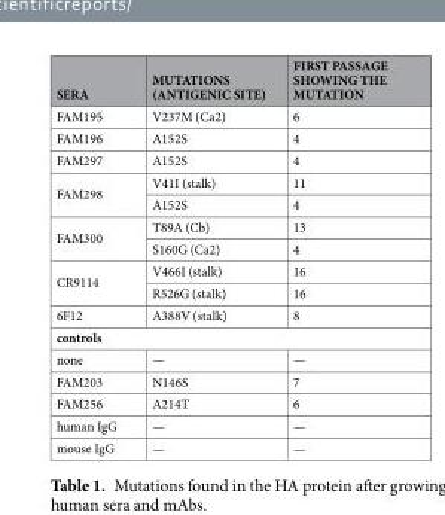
<table><thead><tr><td>SERA</td><td>MUTATIONS (ANTIGENIC SITE)</td><td>FIRST PASSAGE SHOWING THE MUTATION</td></tr></thead><tbody><tr><td>FAM195</td><td>V237M (Ca2)</td><td>6</td></tr><tr><td>FAM196</td><td>A152S</td><td>4</td></tr><tr><td>FAM297</td><td>A152S</td><td>4</td></tr><tr><td rowspan="2">FAM298</td><td>V41I (stalk)</td><td>11</td></tr><tr><td>A152S</td><td>4</td></tr><tr><td rowspan="2">FAM300</td><td>T89A (Cb)</td><td>13</td></tr><tr><td>S160G (Ca2)</td><td>4</td></tr><tr><td rowspan="2">CR9114</td><td>V466I (stalk)</td><td>16</td></tr><tr><td>R526G (stalk)</td><td>16</td></tr><tr><td>6F12</td><td>A388V (stalk)</td><td>8</td></tr><tr><td colspan="3">controls</td></tr><tr><td>none</td><td>—</td><td>—</td></tr><tr><td>FAM203</td><td>N146S</td><td>7</td></tr><tr><td>FAM256</td><td>A214T</td><td>6</td></tr><tr><td>human IgG</td><td>—</td><td>—</td></tr><tr><td>mouse IgG</td><td>—</td><td>—</td></tr></tbody></table>